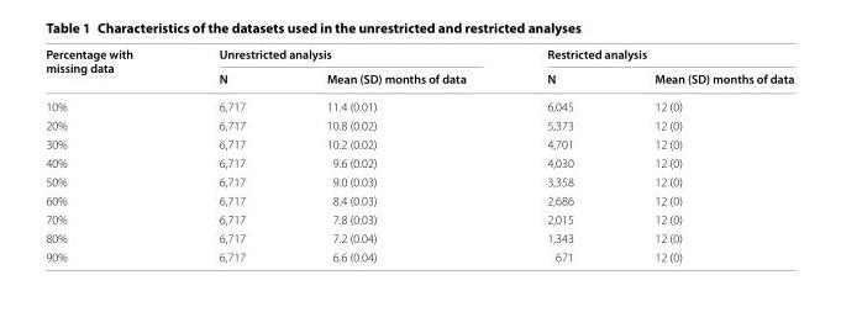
<table><thead><tr><td rowspan="2">Percentage with missing data</td><td colspan="2">Unrestricted analysis</td><td colspan="2">Restricted analysis</td></tr><tr><td>N</td><td>Mean (SD) months of data</td><td>N</td><td>Mean (SD) months of data</td></tr></thead><tbody><tr><td>10%</td><td>6,717</td><td>11.4 (0.01)</td><td>6,045</td><td>12 (0)</td></tr><tr><td>20%</td><td>6,717</td><td>10.8 (0.02)</td><td>5,373</td><td>12 (0)</td></tr><tr><td>30%</td><td>6,717</td><td>10.2 (0.02)</td><td>4,701</td><td>12 (0)</td></tr><tr><td>40%</td><td>6,717</td><td>9.6 (0.02)</td><td>4,030</td><td>12 (0)</td></tr><tr><td>50%</td><td>6,717</td><td>9.0 (0.03)</td><td>3,358</td><td>12 (0)</td></tr><tr><td>60%</td><td>6,717</td><td>8.4 (0.03)</td><td>2,686</td><td>12 (0)</td></tr><tr><td>70%</td><td>6,717</td><td>7.8 (0.03)</td><td>2,015</td><td>12 (0)</td></tr><tr><td>80%</td><td>6,717</td><td>7.2 (0.04)</td><td>1,343</td><td>12 (0)</td></tr><tr><td>90%</td><td>6,717</td><td>6.6 (0.04)</td><td>671</td><td>12 (0)</td></tr></tbody></table>